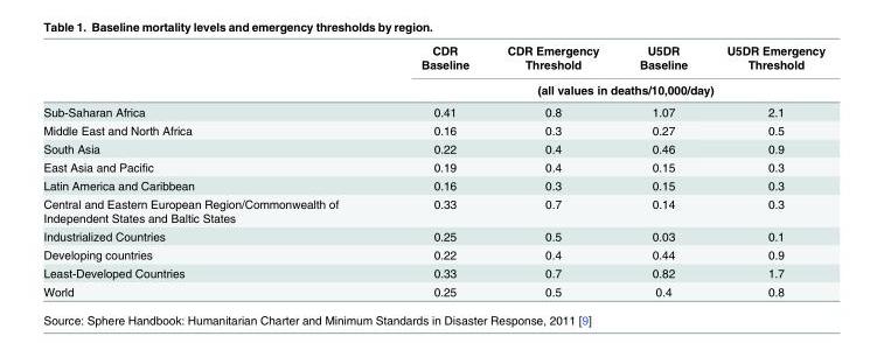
<table><thead><tr><td rowspan="2"></td><td>CDR Baseline</td><td>CDR Emergency Threshold</td><td>U5DR Baseline</td><td>U5DR Emergency Threshold</td></tr><tr><td colspan="4">(all values in deaths/10,000/day)</td></tr></thead><tbody><tr><td>Sub-Saharan Africa</td><td>0.41</td><td>0.8</td><td>1.07</td><td>2.1</td></tr><tr><td>Middle East and North Africa</td><td>0.16</td><td>0.3</td><td>0.27</td><td>0.5</td></tr><tr><td>South Asia</td><td>0.22</td><td>0.4</td><td>0.46</td><td>0.9</td></tr><tr><td>East Asia and Pacific</td><td>0.19</td><td>0.4</td><td>0.15</td><td>0.3</td></tr><tr><td>Latin America and Caribbean</td><td>0.16</td><td>0.3</td><td>0.15</td><td>0.3</td></tr><tr><td>Central and Eastern European Region/Commonwealth of Independent States and Baltic States</td><td>0.33</td><td>0.7</td><td>0.14</td><td>0.3</td></tr><tr><td>Industrialized Countries</td><td>0.25</td><td>0.5</td><td>0.03</td><td>0.1</td></tr><tr><td>Developing countries</td><td>0.22</td><td>0.4</td><td>0.44</td><td>0.9</td></tr><tr><td>Least-Developed Countries</td><td>0.33</td><td>0.7</td><td>0.82</td><td>1.7</td></tr><tr><td>World</td><td>0.25</td><td>0.5</td><td>0.4</td><td>0.8</td></tr></tbody></table>